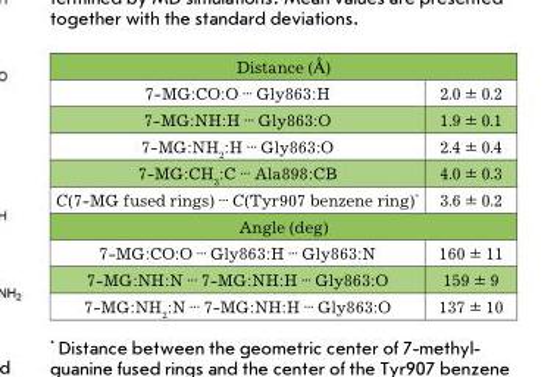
<table><thead><tr><td colspan="2">Distance (Å)</td></tr><tr><td>7-MG:CO:O ∙∙∙ Gly863:H</td><td>2.0 ± 0.2</td></tr></thead><tbody><tr><td>7-MG:NH:H ∙∙∙ Gly863:O</td><td>1.9 ± 0.1</td></tr><tr><td>7-MG:NH<sub>2</sub>:H ∙∙∙ Gly863:O</td><td>2.4 ± 0.4</td></tr><tr><td>7-MG:CH<sub>3</sub>:C ∙∙∙ Ala898:CB</td><td>4.0 ± 0.3</td></tr><tr><td>C(7-MG fused rings) ∙∙∙ C(Tyr907 benzene ring)*</td><td>3.6 ± 0.2</td></tr><tr><td colspan="2">Angle (deg)</td></tr><tr><td>7-MG:CO:O ∙∙∙ Gly863:H ∙∙∙ Gly863:N</td><td>160 ± 11</td></tr><tr><td>7-MG:NH:N ∙∙∙ 7-MG:NH:H ∙∙∙ Gly863:O</td><td>159 ± 9</td></tr><tr><td>7-MG:NH<sub>2</sub>:N ∙∙∙ 7-MG:NH:H ∙∙∙ Gly863:O</td><td>137 ± 10</td></tr></tbody></table>